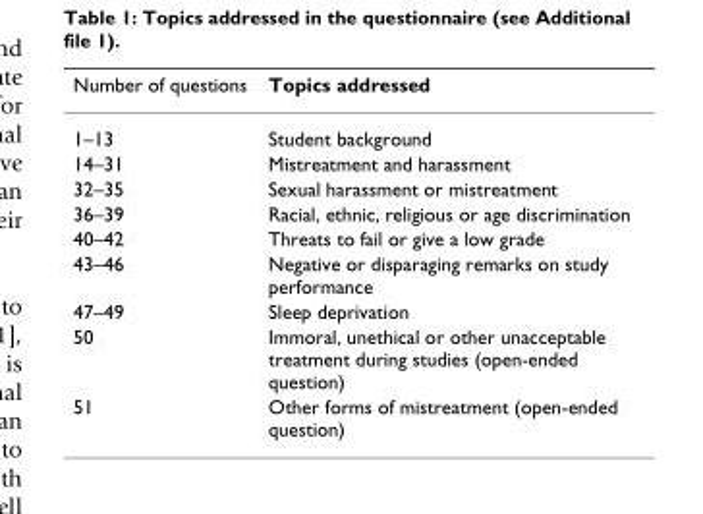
<table><thead><tr><td>Number of questions</td><td>Topics addressed</td></tr></thead><tbody><tr><td>1–13</td><td>Student background</td></tr><tr><td>14–31</td><td>Mistreatment and harassment</td></tr><tr><td>32–35</td><td>Sexual harassment or mistreatment</td></tr><tr><td>36–39</td><td>Racial, ethnic, religious or age discrimination</td></tr><tr><td>40–42</td><td>Threats to fail or give a low grade</td></tr><tr><td>43–46</td><td>Negative or disparaging remarks on study performance</td></tr><tr><td>47–49</td><td>Sleep deprivation</td></tr><tr><td>50</td><td>Immoral, unethical or other unacceptable treatment during studies (open-ended question)</td></tr><tr><td>51</td><td>Other forms of mistreatment (open-ended question)</td></tr></tbody></table>